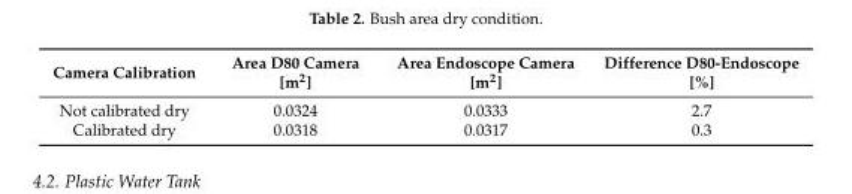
<table><thead><tr><td>Camera Calibration</td><td>Area D80 Camera [m<sup>2</sup>]</td><td>Area Endoscope Camera [m<sup>2</sup>]</td><td>Difference D80-Endoscope [%]</td></tr></thead><tbody><tr><td>Not calibrated dry</td><td>0.0324</td><td>0.0333</td><td>2.7</td></tr><tr><td>Calibrated dry</td><td>0.0318</td><td>0.0317</td><td>0.3</td></tr></tbody></table>